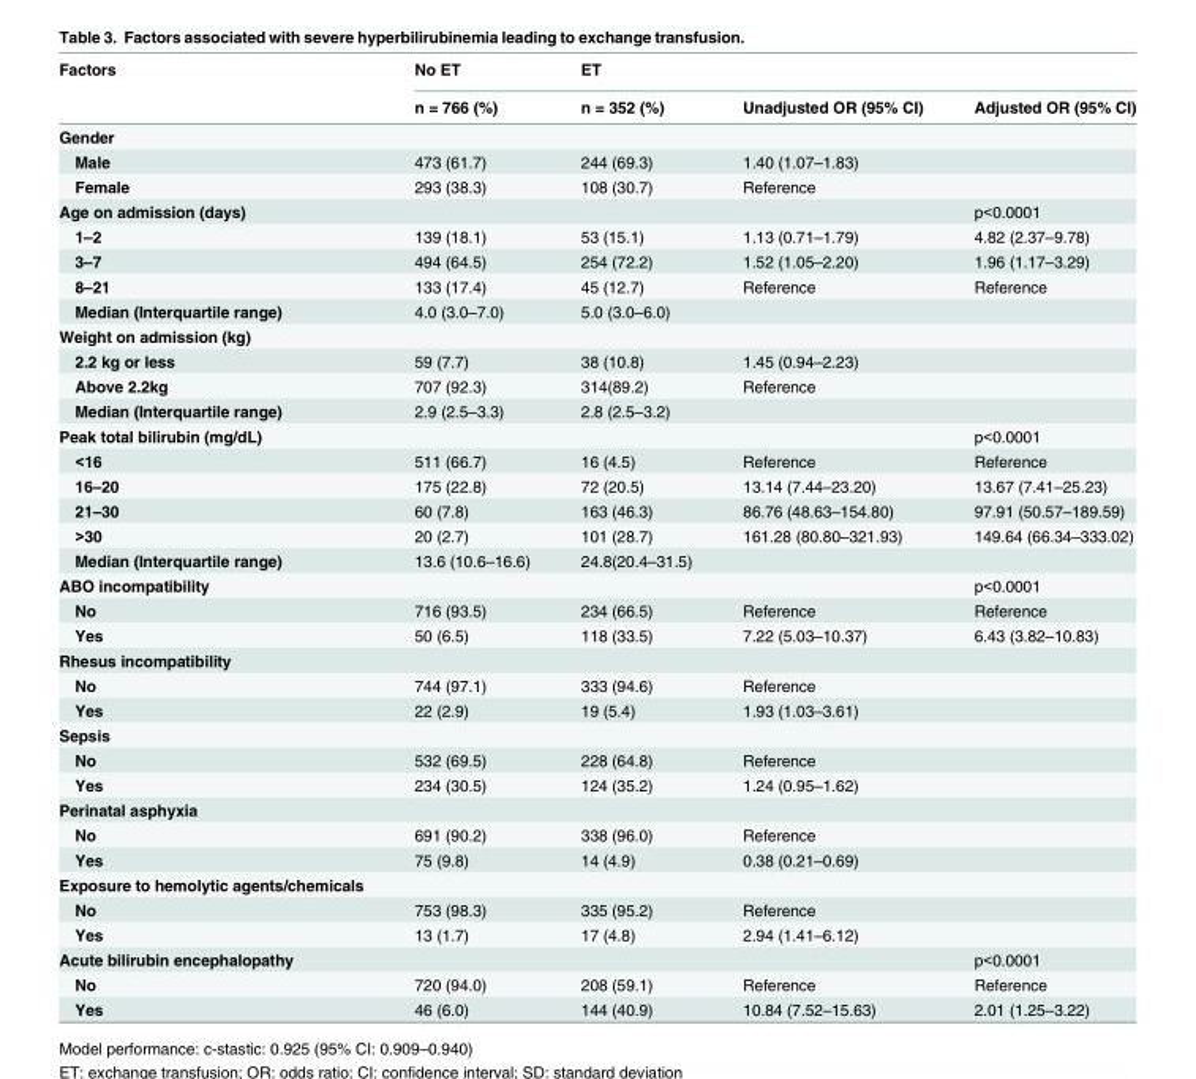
<table><thead><tr><td rowspan="2">Factors</td><td rowspan="2">No ET n = 766 (%)</td><td rowspan="2">ET n = 352 (%)</td><td rowspan="2">Unadjusted OR (95% CI)</td><td rowspan="2">Adjusted OR (95% CI)</td></tr><tr></tr></thead><tbody><tr><td colspan="5">Gender</td></tr><tr><td>Male</td><td>473 (61.7)</td><td>244 (69.3)</td><td>1.40 (1.07–1.83)</td><td></td></tr><tr><td>Female</td><td>293 (38.3)</td><td>108 (30.7)</td><td>Reference</td><td></td></tr><tr><td>Age on admission (days)</td><td></td><td></td><td></td><td>p&lt;0.0001</td></tr><tr><td>1–2</td><td>139 (18.1)</td><td>53 (15.1)</td><td>1.13 (0.71–1.79)</td><td>4.82 (2.37–9.78)</td></tr><tr><td>3–7</td><td>494 (64.5)</td><td>254 (72.2)</td><td>1.52 (1.05–2.20)</td><td>1.96 (1.17–3.29)</td></tr><tr><td>8–21</td><td>133 (17.4)</td><td>45 (12.7)</td><td>Reference</td><td>Reference</td></tr><tr><td>Median (Interquartile range)</td><td>4.0 (3.0–7.0)</td><td>5.0 (3.0–6.0)</td><td></td><td></td></tr><tr><td colspan="5">Weight on admission (kg)</td></tr><tr><td>2.2 kg or less</td><td>59 (7.7)</td><td>38 (10.8)</td><td>1.45 (0.94–2.23)</td><td></td></tr><tr><td>Above 2.2kg</td><td>707 (92.3)</td><td>314(89.2)</td><td>Reference</td><td></td></tr><tr><td>Median (Interquartile range)</td><td>2.9 (2.5–3.3)</td><td>2.8 (2.5–3.2)</td><td></td><td></td></tr><tr><td>Peak total bilirubin (mg/dL)</td><td></td><td></td><td></td><td>p&lt;0.0001</td></tr><tr><td>&lt;16</td><td>511 (66.7)</td><td>16 (4.5)</td><td>Reference</td><td>Reference</td></tr><tr><td>16–20</td><td>175 (22.8)</td><td>72 (20.5)</td><td>13.14 (7.44–23.20)</td><td>13.67 (7.41–25.23)</td></tr><tr><td>21–30</td><td>60 (7.8)</td><td>163 (46.3)</td><td>86.76 (48.63–154.80)</td><td>97.91 (50.57–189.59)</td></tr><tr><td>&gt;30</td><td>20 (2.7)</td><td>101 (28.7)</td><td>161.28 (80.80–321.93)</td><td>149.64 (66.34–333.02)</td></tr><tr><td>Median (Interquartile range)</td><td>13.6 (10.6–16.6)</td><td>24.8(20.4–31.5)</td><td></td><td></td></tr><tr><td>ABO incompatibility</td><td></td><td></td><td></td><td>p&lt;0.0001</td></tr><tr><td>No</td><td>716 (93.5)</td><td>234 (66.5)</td><td>Reference</td><td>Reference</td></tr><tr><td>Yes</td><td>50 (6.5)</td><td>118 (33.5)</td><td>7.22 (5.03–10.37)</td><td>6.43 (3.82–10.83)</td></tr><tr><td colspan="5">Rhesus incompatibility</td></tr><tr><td>No</td><td>744 (97.1)</td><td>333 (94.6)</td><td>Reference</td><td></td></tr><tr><td>Yes</td><td>22 (2.9)</td><td>19 (5.4)</td><td>1.93 (1.03–3.61)</td><td></td></tr><tr><td colspan="5">Sepsis</td></tr><tr><td>No</td><td>532 (69.5)</td><td>228 (64.8)</td><td>Reference</td><td></td></tr><tr><td>Yes</td><td>234 (30.5)</td><td>124 (35.2)</td><td>1.24 (0.95–1.62)</td><td></td></tr><tr><td colspan="5">Perinatal asphyxia</td></tr><tr><td>No</td><td>691 (90.2)</td><td>338 (96.0)</td><td>Reference</td><td></td></tr><tr><td>Yes</td><td>75 (9.8)</td><td>14 (4.9)</td><td>0.38 (0.21–0.69)</td><td></td></tr><tr><td colspan="5">Exposure to hemolytic agents/chemicals</td></tr><tr><td>No</td><td>753 (98.3)</td><td>335 (95.2)</td><td>Reference</td><td></td></tr><tr><td>Yes</td><td>13 (1.7)</td><td>17 (4.8)</td><td>2.94 (1.41–6.12)</td><td></td></tr><tr><td>Acute bilirubin encephalopathy</td><td></td><td></td><td></td><td>p&lt;0.0001</td></tr><tr><td>No</td><td>720 (94.0)</td><td>208 (59.1)</td><td>Reference</td><td>Reference</td></tr><tr><td>Yes</td><td>46 (6.0)</td><td>144 (40.9)</td><td>10.84 (7.52–15.63)</td><td>2.01 (1.25–3.22)</td></tr></tbody></table>